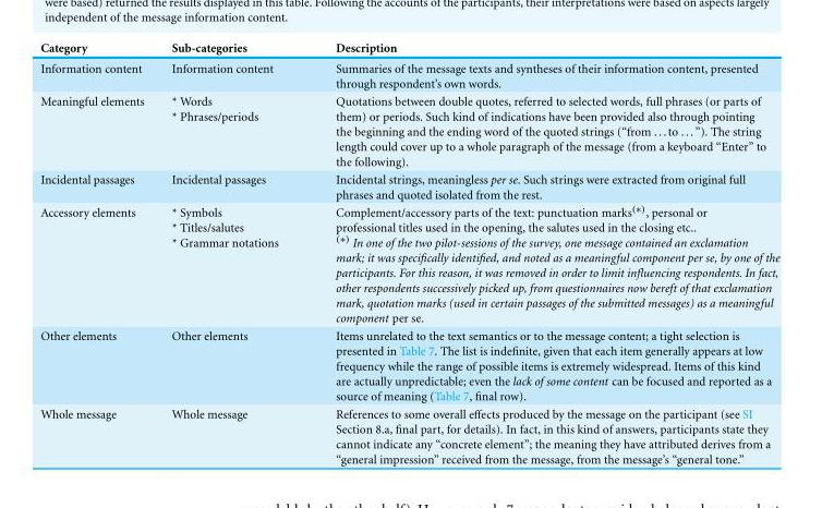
<table><thead><tr><td>Category</td><td>Sub-categories</td><td>Description</td></tr></thead><tbody><tr><td>Information content</td><td>Information content</td><td>Summaries of the message texts and syntheses of their information content, presented through respondent’s own words.</td></tr><tr><td>Meaningful elements</td><td>* Words * Phrases/periods</td><td>Quotations between double quotes, referred to selected words, full phrases (or parts of them) or periods. Such kind of indications have been provided also through pointing the beginning and the ending word of the quoted strings (“from ...to ...”). The string length could cover up to a whole paragraph of the message (from a keyboard “Enter” to the following).</td></tr><tr><td>Incidental passages</td><td>Incidental passages</td><td>Incidental strings, meaningless per se. Such strings were extracted from original full phrases and quoted isolated from the rest.</td></tr><tr><td>Accessory elements</td><td>* Symbols * Titles/salutes * Grammar notations</td><td>Complement/accessory parts of the text: punctuation marks(∗), personal or professional titles used in the opening, the salutes used in the closing etc.. (∗) In one of the two pilot-sessions of the survey, one message contained an exclamation mark; it was specifically identified, and noted as a meaningful component per se, by one of the participants. For this reason, it was removed in order to limit influencing respondents. In fact, other respondents successively picked up, from questionnaires now bereft of that exclamation mark, quotation marks (used in certain passages of the submitted messages) as a meaningful component per se.</td></tr><tr><td>Other elements</td><td>Other elements</td><td>Items unrelated to the text semantics or to the message content; a tight selection is presented in Table 7. The list is indefinite, given that each item generally appears at low frequency while the range of possible items is extremely widespread. Items of this kind are actually unpredictable; even the lack of some content can be focused and reported as a source of meaning (Table 7, final row).</td></tr><tr><td>Whole message</td><td>Whole message</td><td>References to some overall effects produced by the message on the participant (see SI Section 8.a, final part, for details). In fact, in this kind of answers, participants state they cannot indicate any “concrete element”; the meaning they have attributed derives from a “general impression” received from the message, from the message’s “general tone.”</td></tr></tbody></table>